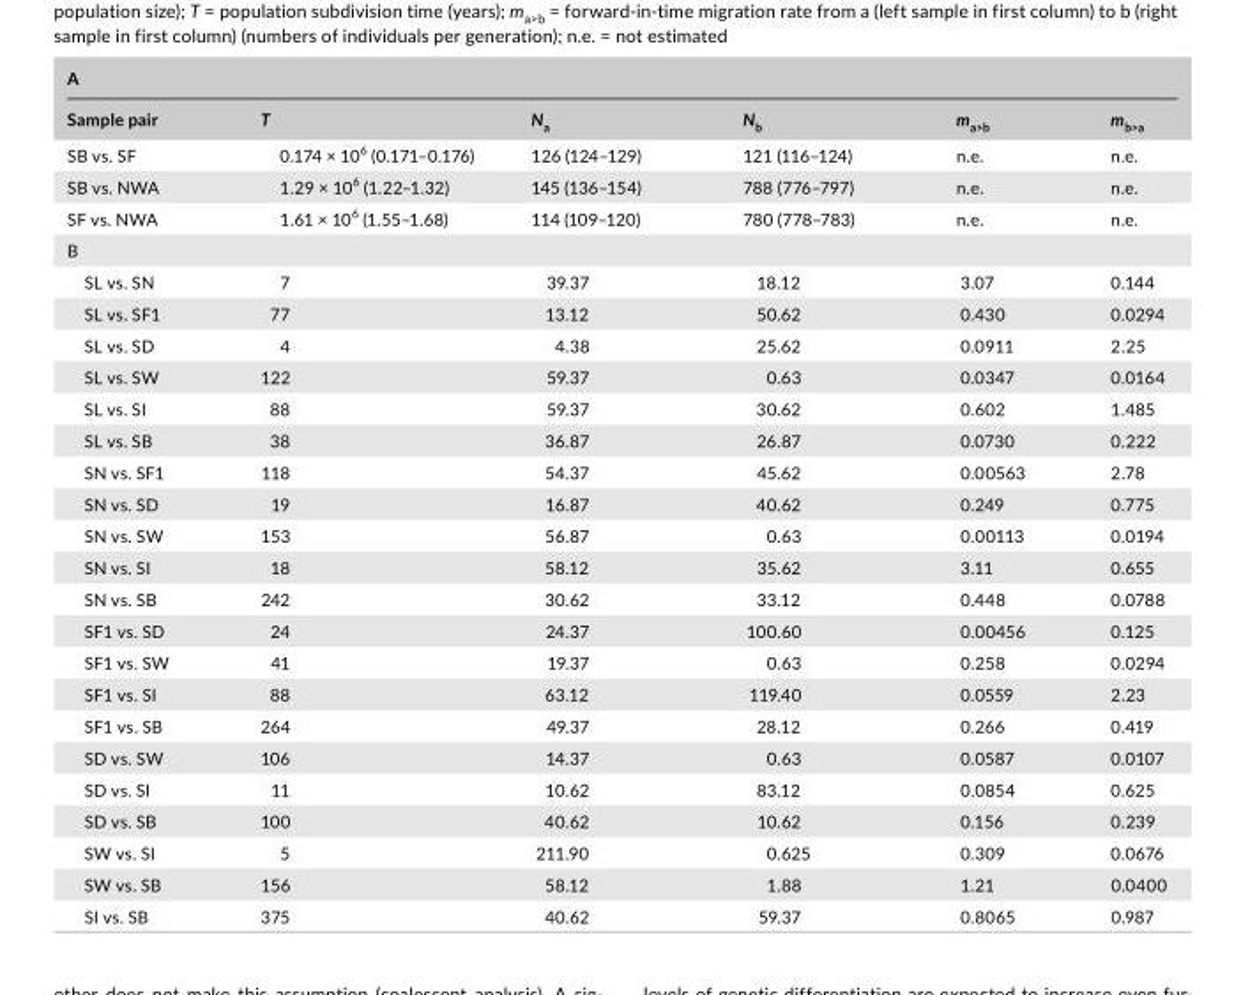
<table><thead><tr><td colspan="6">A</td></tr><tr><td>Sample pair</td><td>T</td><td>N<sub>a</sub></td><td>N<sub>b</sub></td><td>m<sub>a&gt;b</sub></td><td>m<sub>b&gt;a</sub></td></tr></thead><tbody><tr><td>SB vs. SF</td><td>0.174 × 10<sup>6</sup> (0.171–0.176)</td><td>126 (124–129)</td><td>121 (116–124)</td><td>n.e.</td><td>n.e.</td></tr><tr><td>SB vs. NWA</td><td>1.29 × 10<sup>6</sup> (1.22–1.32)</td><td>145 (136–154)</td><td>788 (776–797)</td><td>n.e.</td><td>n.e.</td></tr><tr><td>SF vs. NWA</td><td>1.61 × 10<sup>6</sup> (1.55–1.68)</td><td>114 (109–120)</td><td>780 (778–783)</td><td>n.e.</td><td>n.e.</td></tr><tr><td colspan="6">B</td></tr><tr><td>SL vs. SN</td><td>7</td><td>39.37</td><td>18.12</td><td>3.07</td><td>0.144</td></tr><tr><td>SL vs. SF1</td><td>77</td><td>13.12</td><td>50.62</td><td>0.430</td><td>0.0294</td></tr><tr><td>SL vs. SD</td><td>4</td><td>4.38</td><td>25.62</td><td>0.0911</td><td>2.25</td></tr><tr><td>SL vs. SW</td><td>122</td><td>59.37</td><td>0.63</td><td>0.0347</td><td>0.0164</td></tr><tr><td>SL vs. SI</td><td>88</td><td>59.37</td><td>30.62</td><td>0.602</td><td>1.485</td></tr><tr><td>SL vs. SB</td><td>38</td><td>36.87</td><td>26.87</td><td>0.0730</td><td>0.222</td></tr><tr><td>SN vs. SF1</td><td>118</td><td>54.37</td><td>45.62</td><td>0.00563</td><td>2.78</td></tr><tr><td>SN vs. SD</td><td>19</td><td>16.87</td><td>40.62</td><td>0.249</td><td>0.775</td></tr><tr><td>SN vs. SW</td><td>153</td><td>56.87</td><td>0.63</td><td>0.00113</td><td>0.0194</td></tr><tr><td>SN vs. SI</td><td>18</td><td>58.12</td><td>35.62</td><td>3.11</td><td>0.655</td></tr><tr><td>SN vs. SB</td><td>242</td><td>30.62</td><td>33.12</td><td>0.448</td><td>0.0788</td></tr><tr><td>SF1 vs. SD</td><td>24</td><td>24.37</td><td>100.60</td><td>0.00456</td><td>0.125</td></tr><tr><td>SF1 vs. SW</td><td>41</td><td>19.37</td><td>0.63</td><td>0.258</td><td>0.0294</td></tr><tr><td>SF1 vs. SI</td><td>88</td><td>63.12</td><td>119.40</td><td>0.0559</td><td>2.23</td></tr><tr><td>SF1 vs. SB</td><td>264</td><td>49.37</td><td>28.12</td><td>0.266</td><td>0.419</td></tr><tr><td>SD vs. SW</td><td>106</td><td>14.37</td><td>0.63</td><td>0.0587</td><td>0.0107</td></tr><tr><td>SD vs. SI</td><td>11</td><td>10.62</td><td>83.12</td><td>0.0854</td><td>0.625</td></tr><tr><td>SD vs. SB</td><td>100</td><td>40.62</td><td>10.62</td><td>0.156</td><td>0.239</td></tr><tr><td>SW vs. SI</td><td>5</td><td>211.90</td><td>0.625</td><td>0.309</td><td>0.0676</td></tr><tr><td>SW vs. SB</td><td>156</td><td>58.12</td><td>1.88</td><td>1.21</td><td>0.0400</td></tr><tr><td>SI vs. SB</td><td>375</td><td>40.62</td><td>59.37</td><td>0.8065</td><td>0.987</td></tr></tbody></table>